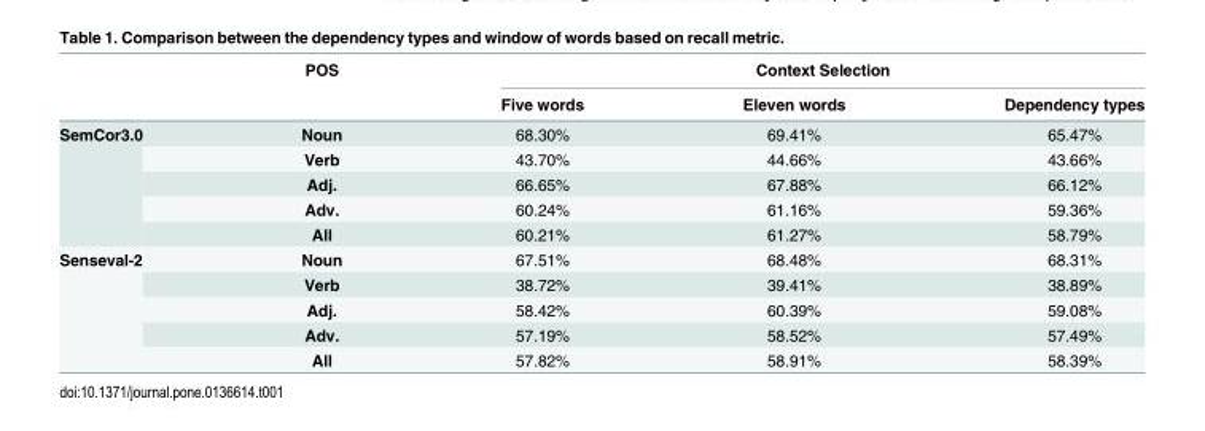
<table><thead><tr><td rowspan="2"></td><td rowspan="2">POS</td><td colspan="3">Context Selection</td></tr><tr><td>Five words</td><td>Eleven words</td><td>Dependency types</td></tr></thead><tbody><tr><td rowspan="5">SemCor3.0</td><td>Noun</td><td>68.30%</td><td>69.41%</td><td>65.47%</td></tr><tr><td>Verb</td><td>43.70%</td><td>44.66%</td><td>43.66%</td></tr><tr><td>Adj.</td><td>66.65%</td><td>67.88%</td><td>66.12%</td></tr><tr><td>Adv.</td><td>60.24%</td><td>61.16%</td><td>59.36%</td></tr><tr><td>All</td><td>60.21%</td><td>61.27%</td><td>58.79%</td></tr><tr><td rowspan="5">Senseval-2</td><td>Noun</td><td>67.51%</td><td>68.48%</td><td>68.31%</td></tr><tr><td>Verb</td><td>38.72%</td><td>39.41%</td><td>38.89%</td></tr><tr><td>Adj.</td><td>58.42%</td><td>60.39%</td><td>59.08%</td></tr><tr><td>Adv.</td><td>57.19%</td><td>58.52%</td><td>57.49%</td></tr><tr><td>All</td><td>57.82%</td><td>58.91%</td><td>58.39%</td></tr></tbody></table>